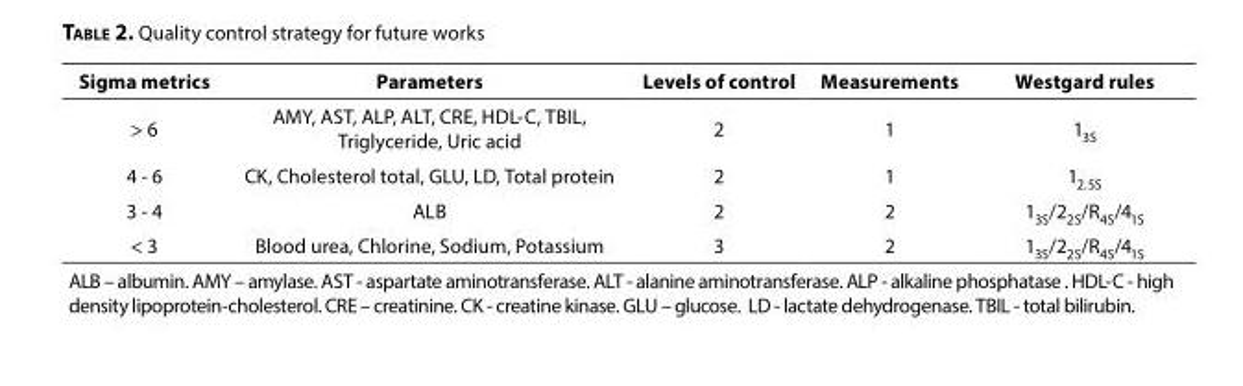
<table><thead><tr><td>Sigma metrics</td><td>Parameters</td><td>Levels of control</td><td>Measurements</td><td>Westgard rules</td></tr></thead><tbody><tr><td>&gt; 6</td><td>AMY, AST, ALP, ALT, CRE, HDL-C, TBIL, Triglyceride, Uric acid</td><td>2</td><td>1</td><td>1<sub>3S</sub></td></tr><tr><td>4 - 6</td><td>CK, Cholesterol total, GLU, LD, Total protein</td><td>2</td><td>1</td><td>1<sub>2.5S</sub></td></tr><tr><td>3 - 4</td><td>ALB</td><td>2</td><td>2</td><td>1<sub>3S</sub>/2<sub>2S</sub>/R<sub>4S</sub>/4<sub>1S</sub></td></tr><tr><td>&lt; 3</td><td>Blood urea, Chlorine, Sodium, Potassium</td><td>3</td><td>2</td><td>1<sub>3S</sub>/2<sub>2S</sub>/R<sub>4S</sub>/4<sub>1S</sub></td></tr><tr><td colspan="5">ALB – albumin. AMY – amylase. AST - aspartate aminotransferase. ALT - alanine aminotransferase. ALP - alkaline phosphatase . HDL-C - high density lipoprotein-cholesterol. CRE – creatinine. CK - creatine kinase. GLU – glucose. LD - lactate dehydrogenase. TBIL - total bilirubin.</td></tr></tbody></table>